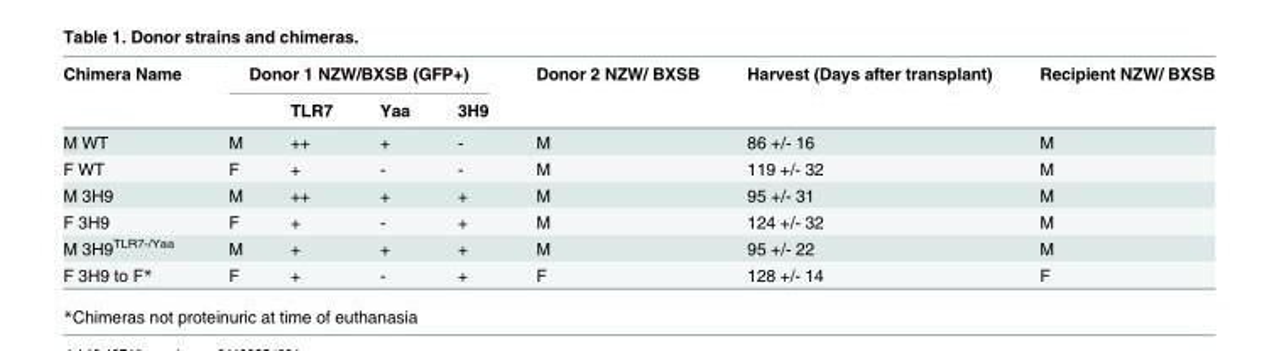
<table><thead><tr><td rowspan="2">Chimera Name</td><td colspan="4">Donor 1 NZW/BXSB (GFP+)</td><td rowspan="2">Donor 2 NZW/ BXSB</td><td rowspan="2">Harvest (Days after transplant)</td><td rowspan="2">Recipient NZW/ BXSB</td></tr><tr><td></td><td>TLR7</td><td>Yaa</td><td>3H9</td></tr></thead><tbody><tr><td>M WT</td><td>M</td><td>++</td><td>+</td><td>-</td><td>M</td><td>86 +/- 16</td><td>M</td></tr><tr><td>F WT</td><td>F</td><td>+</td><td>-</td><td>-</td><td>M</td><td>119 +/- 32</td><td>M</td></tr><tr><td>M 3H9</td><td>M</td><td>++</td><td>+</td><td>+</td><td>M</td><td>95 +/- 31</td><td>M</td></tr><tr><td>F 3H9</td><td>F</td><td>+</td><td>-</td><td>+</td><td>M</td><td>124 +/- 32</td><td>M</td></tr><tr><td>M 3H9<sup>TLR7-/Yaa</sup></td><td>M</td><td>+</td><td>+</td><td>+</td><td>M</td><td>95 +/- 22</td><td>M</td></tr><tr><td>F 3H9 to F*</td><td>F</td><td>+</td><td>-</td><td>+</td><td>F</td><td>128 +/- 14</td><td>F</td></tr></tbody></table>